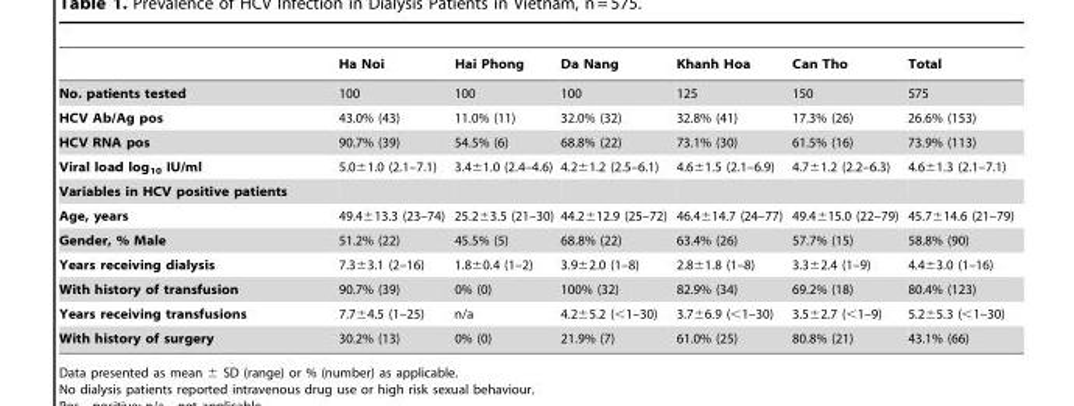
<table><thead><tr><td></td><td>Ha Noi</td><td>Hai Phong</td><td>Da Nang</td><td>Khanh Hoa</td><td>Can Tho</td><td>Total</td></tr></thead><tbody><tr><td>No. patients tested</td><td>100</td><td>100</td><td>100</td><td>125</td><td>150</td><td>575</td></tr><tr><td>HCV Ab/Ag pos</td><td>43.0% (43)</td><td>11.0% (11)</td><td>32.0% (32)</td><td>32.8% (41)</td><td>17.3% (26)</td><td>26.6% (153)</td></tr><tr><td>HCV RNA pos</td><td>90.7% (39)</td><td>54.5% (6)</td><td>68.8% (22)</td><td>73.1% (30)</td><td>61.5% (16)</td><td>73.9% (113)</td></tr><tr><td>Viral load log<sub>10</sub> IU/ml</td><td>5.0±1.0 (2.1–7.1)</td><td>3.4±1.0 (2.4–4.6)</td><td>4.2±1.2 (2.5–6.1)</td><td>4.6±1.5 (2.1–6.9)</td><td>4.7±1.2 (2.2–6.3)</td><td>4.6±1.3 (2.1–7.1)</td></tr><tr><td colspan="7">Variables in HCV positive patients</td></tr><tr><td>Age, years</td><td>49.4±13.3 (23–74)</td><td>25.2±3.5 (21–30)</td><td>44.2±12.9 (25–72)</td><td>46.4±14.7 (24–77)</td><td>49.4±15.0 (22–79)</td><td>45.7±14.6 (21–79)</td></tr><tr><td>Gender, % Male</td><td>51.2% (22)</td><td>45.5% (5)</td><td>68.8% (22)</td><td>63.4% (26)</td><td>57.7% (15)</td><td>58.8% (90)</td></tr><tr><td>Years receiving dialysis</td><td>7.3±3.1 (2–16)</td><td>1.8±0.4 (1–2)</td><td>3.9±2.0 (1–8)</td><td>2.8±1.8 (1–8)</td><td>3.3±2.4 (1–9)</td><td>4.4±3.0 (1–16)</td></tr><tr><td>With history of transfusion</td><td>90.7% (39)</td><td>0% (0)</td><td>100% (32)</td><td>82.9% (34)</td><td>69.2% (18)</td><td>80.4% (123)</td></tr><tr><td>Years receiving transfusions</td><td>7.7±4.5 (1–25)</td><td>n/a</td><td>4.2±5.2 (&lt;1–30)</td><td>3.7±6.9 (&lt;1–30)</td><td>3.5±2.7 (&lt;1–9)</td><td>5.2±5.3 (&lt;1–30)</td></tr><tr><td>With history of surgery</td><td>30.2% (13)</td><td>0% (0)</td><td>21.9% (7)</td><td>61.0% (25)</td><td>80.8% (21)</td><td>43.1% (66)</td></tr></tbody></table>